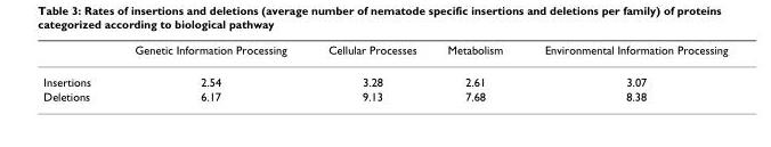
<table><thead><tr><td></td><td>Genetic Information Processing</td><td>Cellular Processes</td><td>Metabolism</td><td>Environmental Information Processing</td></tr></thead><tbody><tr><td>Insertions</td><td>2.54</td><td>3.28</td><td>2.61</td><td>3.07</td></tr><tr><td>Deletions</td><td>6.17</td><td>9.13</td><td>7.68</td><td>8.38</td></tr></tbody></table>